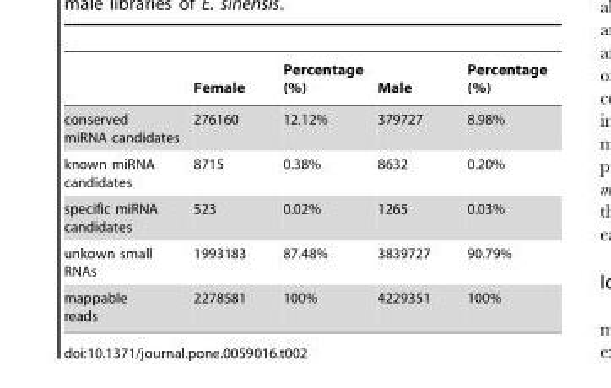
<table><thead><tr><td></td><td>Female</td><td>Percentage (%)</td><td>Male</td><td>Percentage (%)</td></tr></thead><tbody><tr><td>conserved miRNA candidates</td><td>276160</td><td>12.12%</td><td>379727</td><td>8.98%</td></tr><tr><td>known miRNA candidates</td><td>8715</td><td>0.38%</td><td>8632</td><td>0.20%</td></tr><tr><td>specific miRNA candidates</td><td>523</td><td>0.02%</td><td>1265</td><td>0.03%</td></tr><tr><td>unkown small RNAs</td><td>1993183</td><td>87.48%</td><td>3839727</td><td>90.79%</td></tr><tr><td>mappable reads</td><td>2278581</td><td>100%</td><td>4229351</td><td>100%</td></tr></tbody></table>